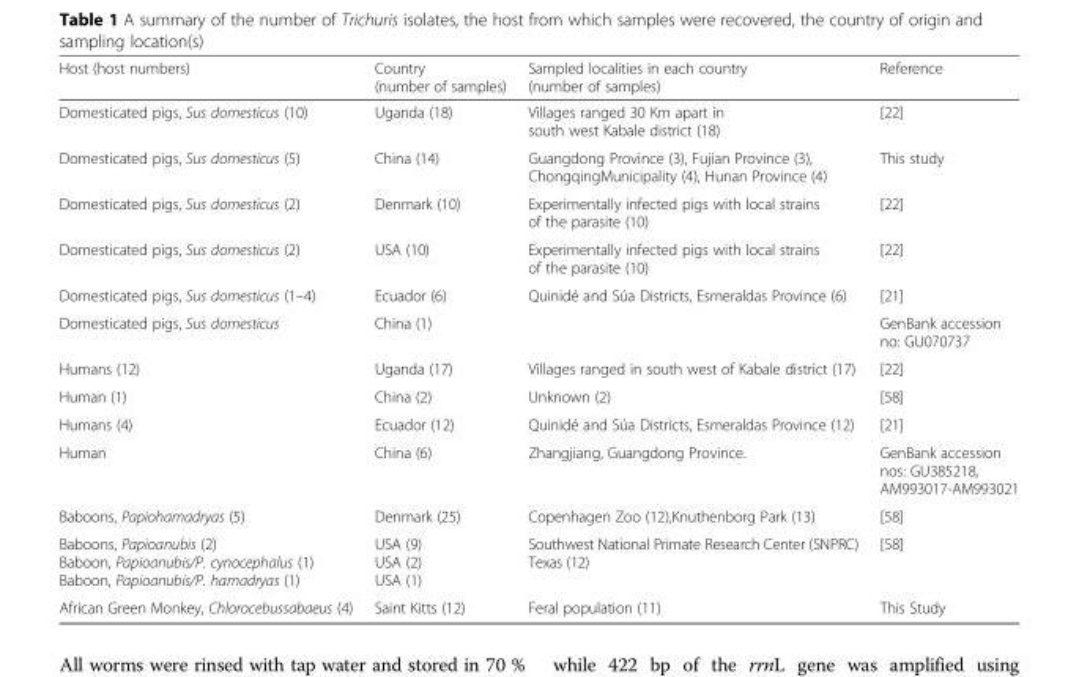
<table><thead><tr><td>Host (host numbers)</td><td>Country (number of samples)</td><td>Sampled localities in each country (number of samples)</td><td>Reference</td></tr></thead><tbody><tr><td>Domesticated pigs, Sus domesticus (10)</td><td>Uganda (18)</td><td>Villages ranged 30 Km apart in south west Kabale district (18)</td><td>[22]</td></tr><tr><td>Domesticated pigs, Sus domesticus (5)</td><td>China (14)</td><td>Guangdong Province (3), Fujian Province (3), ChongqingMunicipality (4), Hunan Province (4)</td><td>This study</td></tr><tr><td>Domesticated pigs, Sus domesticus (2)</td><td>Denmark (10)</td><td>Experimentally infected pigs with local strains of the parasite (10)</td><td>[22]</td></tr><tr><td>Domesticated pigs, Sus domesticus (2)</td><td>USA (10)</td><td>Experimentally infected pigs with local strains of the parasite (10)</td><td>[22]</td></tr><tr><td>Domesticated pigs, Sus domesticus (1–4)</td><td>Ecuador (6)</td><td>Quinidé and Súa Districts, Esmeraldas Province (6)</td><td>[21]</td></tr><tr><td>Domesticated pigs, Sus domesticus</td><td>China (1)</td><td></td><td>GenBank accession no: GU070737</td></tr><tr><td>Humans (12)</td><td>Uganda (17)</td><td>Villages ranged in south west of Kabale district (17)</td><td>[22]</td></tr><tr><td>Human (1)</td><td>China (2)</td><td>Unknown (2)</td><td>[58]</td></tr><tr><td>Humans (4)</td><td>Ecuador (12)</td><td>Quinidé and Súa Districts, Esmeraldas Province (12)</td><td>[21]</td></tr><tr><td>Human</td><td>China (6)</td><td>Zhangjiang, Guangdong Province.</td><td>GenBank accession nos: GU385218, AM993017-AM993021</td></tr><tr><td>Baboons, Papiohamadryas (5)</td><td>Denmark (25)</td><td>Copenhagen Zoo (12),Knuthenborg Park (13)</td><td>[58]</td></tr><tr><td>Baboons, Papioanubis (2) Baboon, Papioanubis/P. cynocephalus (1) Baboon, Papioanubis/P. hamadryas (1)</td><td>USA (9) USA (2) USA (1)</td><td>Southwest National Primate Research Center (SNPRC) Texas (12)</td><td>[58]</td></tr><tr><td>African Green Monkey, Chlorocebussabaeus (4)</td><td>Saint Kitts (12)</td><td>Feral population (11)</td><td>This Study</td></tr></tbody></table>